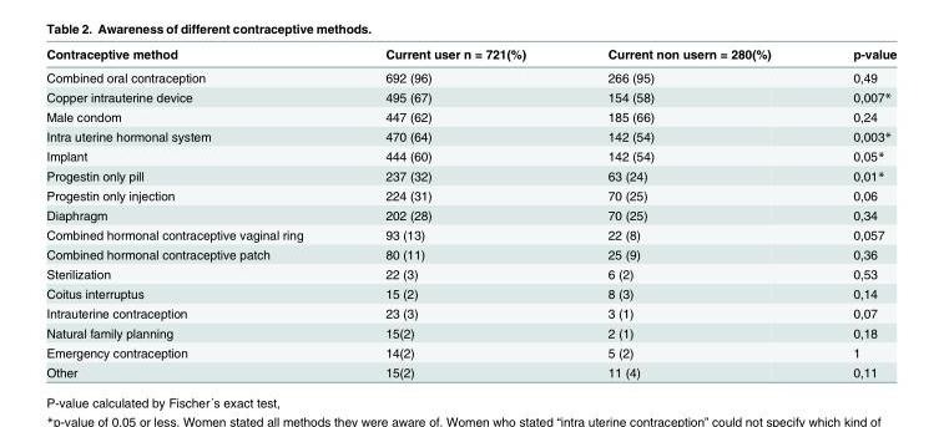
<table><thead><tr><td>Contraceptive method</td><td>Current user n = 721(%)</td><td>Current non usern = 280(%)</td><td>p-value</td></tr></thead><tbody><tr><td>Combined oral contraception</td><td>692 (96)</td><td>266 (95)</td><td>0,49</td></tr><tr><td>Copper intrauterine device</td><td>495 (67)</td><td>154 (58)</td><td>0,007*</td></tr><tr><td>Male condom</td><td>447 (62)</td><td>185 (66)</td><td>0,24</td></tr><tr><td>Intra uterine hormonal system</td><td>470 (64)</td><td>142 (54)</td><td>0,003*</td></tr><tr><td>Implant</td><td>444 (60)</td><td>142 (54)</td><td>0,05*</td></tr><tr><td>Progestin only pill</td><td>237 (32)</td><td>63 (24)</td><td>0,01*</td></tr><tr><td>Progestin only injection</td><td>224 (31)</td><td>70 (25)</td><td>0,06</td></tr><tr><td>Diaphragm</td><td>202 (28)</td><td>70 (25)</td><td>0,34</td></tr><tr><td>Combined hormonal contraceptive vaginal ring</td><td>93 (13)</td><td>22 (8)</td><td>0,057</td></tr><tr><td>Combined hormonal contraceptive patch</td><td>80 (11)</td><td>25 (9)</td><td>0,36</td></tr><tr><td>Sterilization</td><td>22 (3)</td><td>6 (2)</td><td>0,53</td></tr><tr><td>Coitus interruptus</td><td>15 (2)</td><td>8 (3)</td><td>0,14</td></tr><tr><td>Intrauterine contraception</td><td>23 (3)</td><td>3 (1)</td><td>0,07</td></tr><tr><td>Natural family planning</td><td>15(2)</td><td>2 (1)</td><td>0,18</td></tr><tr><td>Emergency contraception</td><td>14(2)</td><td>5 (2)</td><td>1</td></tr><tr><td>Other</td><td>15(2)</td><td>11 (4)</td><td>0,11</td></tr></tbody></table>